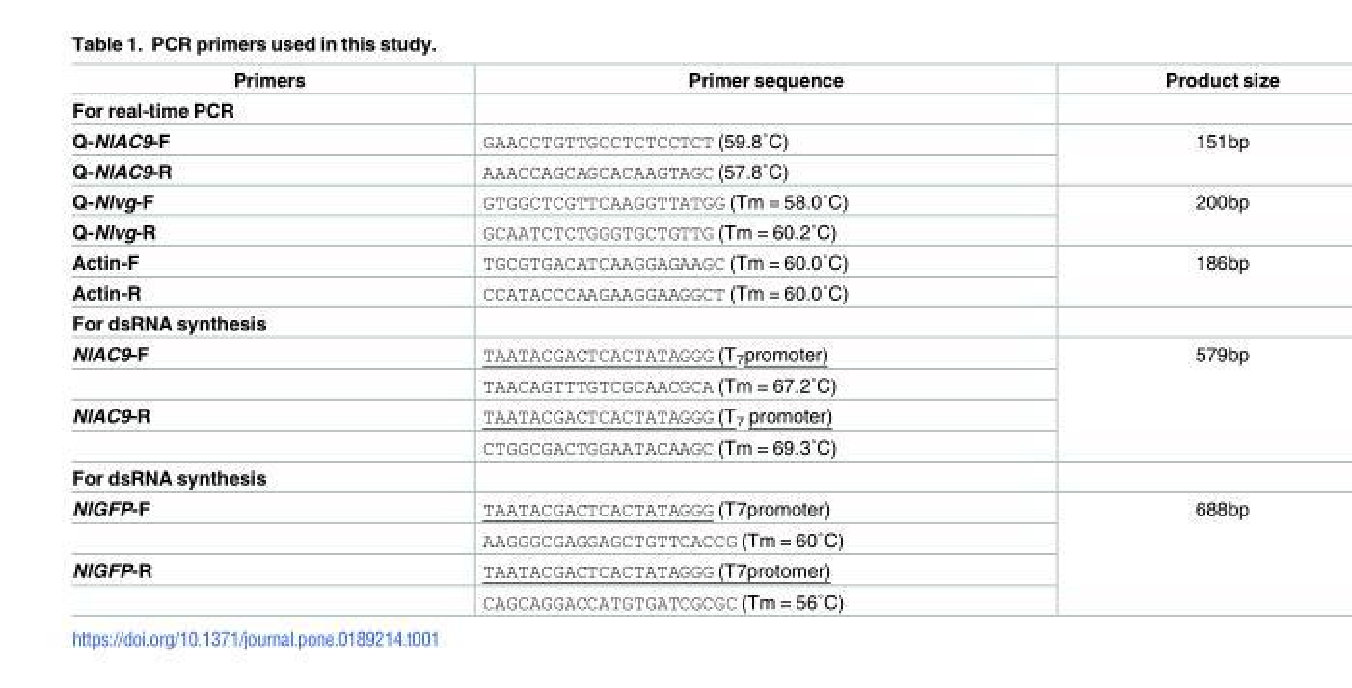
<table><thead><tr><td>Primers</td><td>Primer sequence</td><td>Product size</td></tr></thead><tbody><tr><td colspan="3">For real-time PCR</td></tr><tr><td>Q-NlAC9-F</td><td>GAACCTGTTGCCTCTCCTCT (59.8˚C)</td><td rowspan="2">151bp</td></tr><tr><td>Q-NlAC9-R</td><td>AAACCAGCAGCACAAGTAGC (57.8˚C)</td></tr><tr><td>Q-Nlvg-F</td><td>GTGGCTCGTTCAAGGTTATGG (Tm = 58.0˚C)</td><td rowspan="2">200bp</td></tr><tr><td>Q-Nlvg-R</td><td>GCAATCTCTGGGTGCTGTTG (Tm = 60.2˚C)</td></tr><tr><td>Actin-F</td><td>TGCGTGACATCAAGGAGAAGC (Tm = 60.0˚C)</td><td rowspan="2">186bp</td></tr><tr><td>Actin-R</td><td>CCATACCCAAGAAGGAAGGCT (Tm = 60.0˚C)</td></tr><tr><td colspan="3">For dsRNA synthesis</td></tr><tr><td rowspan="2">NlAC9-F</td><td>TAATACGACTCACTATAGGG (T<sub>7</sub>promoter)</td><td rowspan="4">579bp</td></tr><tr><td>TAACAGTTTGTCGCAACGCA (Tm = 67.2˚C)</td></tr><tr><td rowspan="2">NlAC9-R</td><td>TAATACGACTCACTATAGGG (T7 promoter)</td></tr><tr><td>CTGGCGACTGGAATACAAGC (Tm = 69.3˚C)</td></tr><tr><td colspan="3">For dsRNA synthesis</td></tr><tr><td rowspan="2">NlGFP-F</td><td>TAATACGACTCACTATAGGG (T7promoter)</td><td rowspan="4">688bp</td></tr><tr><td>AAGGGCGAGGAGCTGTTCACCG (Tm = 60˚C)</td></tr><tr><td rowspan="2">NlGFP-R</td><td>TAATACGACTCACTATAGGG (T7protomer)</td></tr><tr><td>CAGCAGGACCATGTGATCGCGC (Tm = 56˚C)</td></tr></tbody></table>